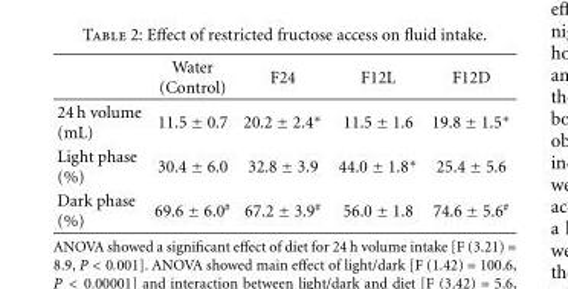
<table><thead><tr><td></td><td>Water (Control)</td><td>F24</td><td>F12L</td><td>F12D</td></tr></thead><tbody><tr><td>24 h volume (mL)</td><td>11.5 ± 0.7</td><td>20.2 ± 2.4∗</td><td>11.5 ± 1.6</td><td>19.8 ± 1.5∗</td></tr><tr><td>Light phase (%)</td><td>30.4 ± 6.0</td><td>32.8 ± 3.9</td><td>44.0 ± 1.8∗</td><td>25.4 ± 5.6</td></tr><tr><td>Dark phase (%)</td><td>69.6 ± 6.0<sup>#</sup></td><td>67.2 ± 3.9<sup>#</sup></td><td>56.0 ± 1.8</td><td>74.6 ± 5.6<sup>#</sup></td></tr></tbody></table>